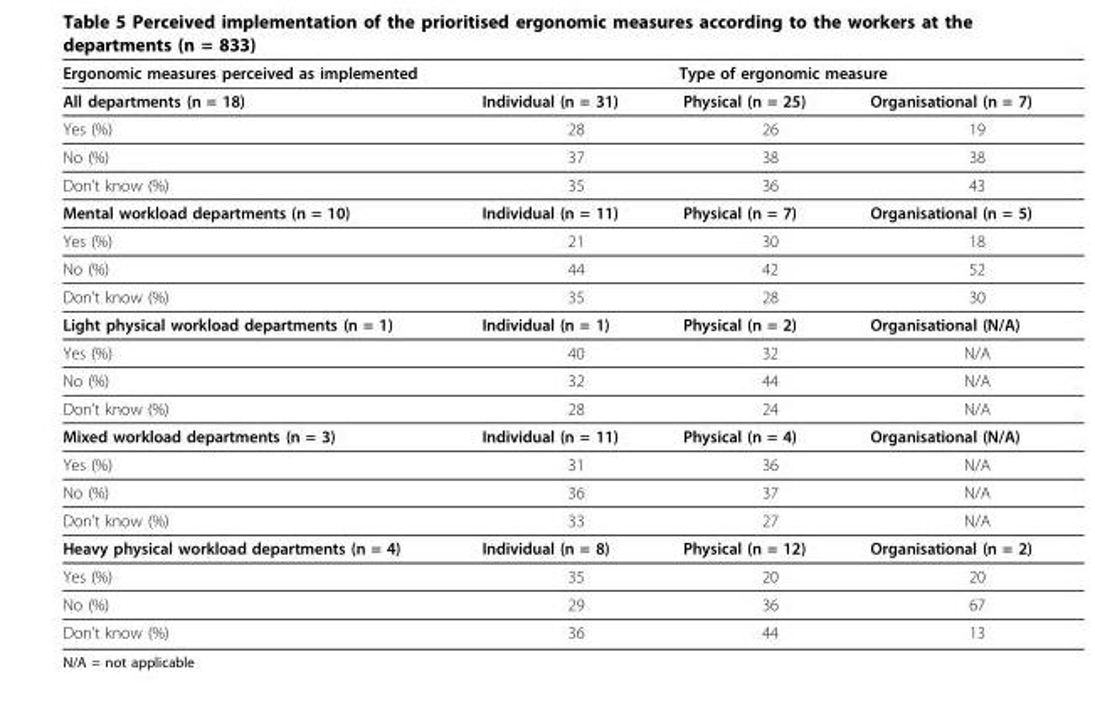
<table><thead><tr><td rowspan="2">Ergonomic measures perceived as implemented All departments (n = 18)</td><td colspan="3">Type of ergonomic measure</td></tr><tr><td>Individual (n = 31)</td><td>Physical (n = 25)</td><td>Organisational (n = 7)</td></tr></thead><tbody><tr><td>Yes (%)</td><td>28</td><td>26</td><td>19</td></tr><tr><td>No (%)</td><td>37</td><td>38</td><td>38</td></tr><tr><td>Don’t know (%)</td><td>35</td><td>36</td><td>43</td></tr><tr><td>Mental workload departments (n = 10)</td><td>Individual (n = 11)</td><td>Physical (n = 7)</td><td>Organisational (n = 5)</td></tr><tr><td>Yes (%)</td><td>21</td><td>30</td><td>18</td></tr><tr><td>No (%)</td><td>44</td><td>42</td><td>52</td></tr><tr><td>Don’t know (%)</td><td>35</td><td>28</td><td>30</td></tr><tr><td>Light physical workload departments (n = 1)</td><td>Individual (n = 1)</td><td>Physical (n = 2)</td><td>Organisational (N/A)</td></tr><tr><td>Yes (%)</td><td>40</td><td>32</td><td>N/A</td></tr><tr><td>No (%)</td><td>32</td><td>44</td><td>N/A</td></tr><tr><td>Don’t know (%)</td><td>28</td><td>24</td><td>N/A</td></tr><tr><td>Mixed workload departments (n = 3)</td><td>Individual (n = 11)</td><td>Physical (n = 4)</td><td>Organisational (N/A)</td></tr><tr><td>Yes (%)</td><td>31</td><td>36</td><td>N/A</td></tr><tr><td>No (%)</td><td>36</td><td>37</td><td>N/A</td></tr><tr><td>Don’t know (%)</td><td>33</td><td>27</td><td>N/A</td></tr><tr><td>Heavy physical workload departments (n = 4)</td><td>Individual (n = 8)</td><td>Physical (n = 12)</td><td>Organisational (n = 2)</td></tr><tr><td>Yes (%)</td><td>35</td><td>20</td><td>20</td></tr><tr><td>No (%)</td><td>29</td><td>36</td><td>67</td></tr><tr><td>Don’t know (%)</td><td>36</td><td>44</td><td>13</td></tr></tbody></table>